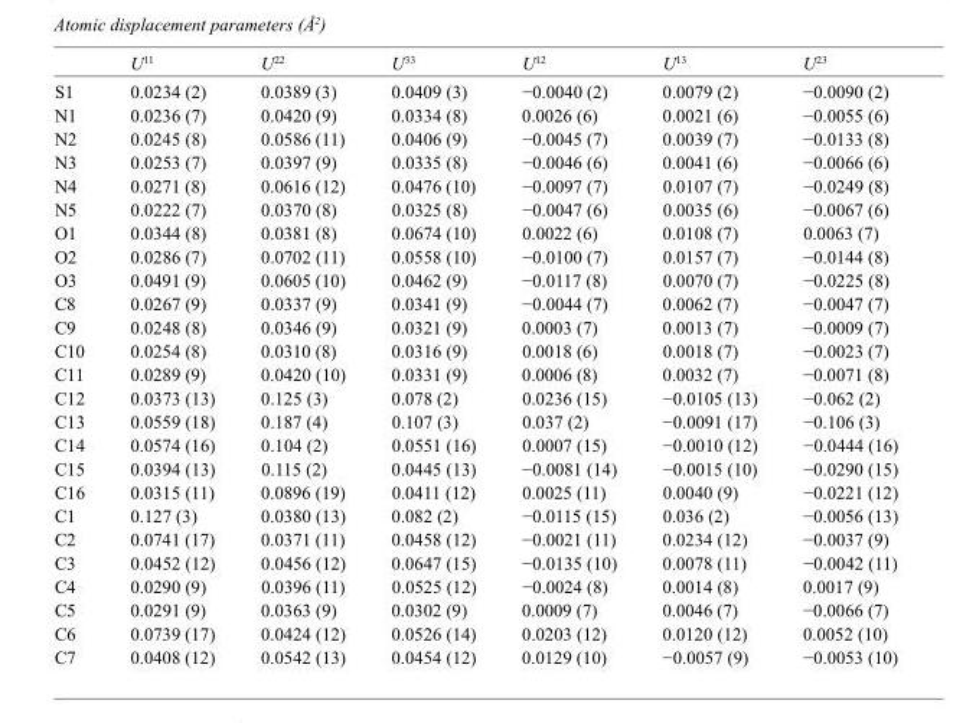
<table><thead><tr><td></td><td>U<sup>11</sup></td><td>U<sup>22</sup></td><td>U<sup>33</sup></td><td>U<sup>12</sup></td><td>U<sup>13</sup></td><td>U<sup>23</sup></td></tr></thead><tbody><tr><td>S1</td><td>0.0234 (2)</td><td>0.0389 (3)</td><td>0.0409 (3)</td><td>−0.0040 (2)</td><td>0.0079 (2)</td><td>−0.0090 (2)</td></tr><tr><td>N1</td><td>0.0236 (7)</td><td>0.0420 (9)</td><td>0.0334 (8)</td><td>0.0026 (6)</td><td>0.0021 (6)</td><td>−0.0055 (6)</td></tr><tr><td>N2</td><td>0.0245 (8)</td><td>0.0586 (11)</td><td>0.0406 (9)</td><td>−0.0045 (7)</td><td>0.0039 (7)</td><td>−0.0133 (8)</td></tr><tr><td>N3</td><td>0.0253 (7)</td><td>0.0397 (9)</td><td>0.0335 (8)</td><td>−0.0046 (6)</td><td>0.0041 (6)</td><td>−0.0066 (6)</td></tr><tr><td>N4</td><td>0.0271 (8)</td><td>0.0616 (12)</td><td>0.0476 (10)</td><td>−0.0097 (7)</td><td>0.0107 (7)</td><td>−0.0249 (8)</td></tr><tr><td>N5</td><td>0.0222 (7)</td><td>0.0370 (8)</td><td>0.0325 (8)</td><td>−0.0047 (6)</td><td>0.0035 (6)</td><td>−0.0067 (6)</td></tr><tr><td>O1</td><td>0.0344 (8)</td><td>0.0381 (8)</td><td>0.0674 (10)</td><td>0.0022 (6)</td><td>0.0108 (7)</td><td>0.0063 (7)</td></tr><tr><td>O2</td><td>0.0286 (7)</td><td>0.0702 (11)</td><td>0.0558 (10)</td><td>−0.0100 (7)</td><td>0.0157 (7)</td><td>−0.0144 (8)</td></tr><tr><td>O3</td><td>0.0491 (9)</td><td>0.0605 (10)</td><td>0.0462 (9)</td><td>−0.0117 (8)</td><td>0.0070 (7)</td><td>−0.0225 (8)</td></tr><tr><td>C8</td><td>0.0267 (9)</td><td>0.0337 (9)</td><td>0.0341 (9)</td><td>−0.0044 (7)</td><td>0.0062 (7)</td><td>−0.0047 (7)</td></tr><tr><td>C9</td><td>0.0248 (8)</td><td>0.0346 (9)</td><td>0.0321 (9)</td><td>0.0003 (7)</td><td>0.0013 (7)</td><td>−0.0009 (7)</td></tr><tr><td>C10</td><td>0.0254 (8)</td><td>0.0310 (8)</td><td>0.0316 (9)</td><td>0.0018 (6)</td><td>0.0018 (7)</td><td>−0.0023 (7)</td></tr><tr><td>C11</td><td>0.0289 (9)</td><td>0.0420 (10)</td><td>0.0331 (9)</td><td>0.0006 (8)</td><td>0.0032 (7)</td><td>−0.0071 (8)</td></tr><tr><td>C12</td><td>0.0373 (13)</td><td>0.125 (3)</td><td>0.078 (2)</td><td>0.0236 (15)</td><td>−0.0105 (13)</td><td>−0.062 (2)</td></tr><tr><td>C13</td><td>0.0559 (18)</td><td>0.187 (4)</td><td>0.107 (3)</td><td>0.037 (2)</td><td>−0.0091 (17)</td><td>−0.106 (3)</td></tr><tr><td>C14</td><td>0.0574 (16)</td><td>0.104 (2)</td><td>0.0551 (16)</td><td>0.0007 (15)</td><td>−0.0010 (12)</td><td>−0.0444 (16)</td></tr><tr><td>C15</td><td>0.0394 (13)</td><td>0.115 (2)</td><td>0.0445 (13)</td><td>−0.0081 (14)</td><td>−0.0015 (10)</td><td>−0.0290 (15)</td></tr><tr><td>C16</td><td>0.0315 (11)</td><td>0.0896 (19)</td><td>0.0411 (12)</td><td>0.0025 (11)</td><td>0.0040 (9)</td><td>−0.0221 (12)</td></tr><tr><td>C1</td><td>0.127 (3)</td><td>0.0380 (13)</td><td>0.082 (2)</td><td>−0.0115 (15)</td><td>0.036 (2)</td><td>−0.0056 (13)</td></tr><tr><td>C2</td><td>0.0741 (17)</td><td>0.0371 (11)</td><td>0.0458 (12)</td><td>−0.0021 (11)</td><td>0.0234 (12)</td><td>−0.0037 (9)</td></tr><tr><td>C3</td><td>0.0452 (12)</td><td>0.0456 (12)</td><td>0.0647 (15)</td><td>−0.0135 (10)</td><td>0.0078 (11)</td><td>−0.0042 (11)</td></tr><tr><td>C4</td><td>0.0290 (9)</td><td>0.0396 (11)</td><td>0.0525 (12)</td><td>−0.0024 (8)</td><td>0.0014 (8)</td><td>0.0017 (9)</td></tr><tr><td>C5</td><td>0.0291 (9)</td><td>0.0363 (9)</td><td>0.0302 (9)</td><td>0.0009 (7)</td><td>0.0046 (7)</td><td>−0.0066 (7)</td></tr><tr><td>C6</td><td>0.0739 (17)</td><td>0.0424 (12)</td><td>0.0526 (14)</td><td>0.0203 (12)</td><td>0.0120 (12)</td><td>0.0052 (10)</td></tr><tr><td>C7</td><td>0.0408 (12)</td><td>0.0542 (13)</td><td>0.0454 (12)</td><td>0.0129 (10)</td><td>−0.0057 (9)</td><td>−0.0053 (10)</td></tr></tbody></table>